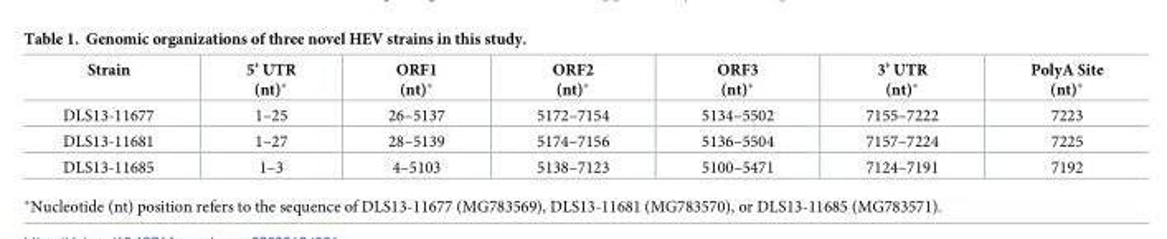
<table><thead><tr><td>Strain</td><td>5’ UTR (nt)*</td><td>ORF1 (nt)*</td><td>ORF2 (nt)*</td><td>ORF3 (nt)*</td><td>3’ UTR (nt)*</td><td>PolyA Site (nt)*</td></tr></thead><tbody><tr><td>DLS13-11677</td><td>1–25</td><td>26–5137</td><td>5172–7154</td><td>5134–5502</td><td>7155–7222</td><td>7223</td></tr><tr><td>DLS13-11681</td><td>1–27</td><td>28–5139</td><td>5174–7156</td><td>5136–5504</td><td>7157–7224</td><td>7225</td></tr><tr><td>DLS13-11685</td><td>1–3</td><td>4–5103</td><td>5138–7123</td><td>5100–5471</td><td>7124–7191</td><td>7192</td></tr></tbody></table>